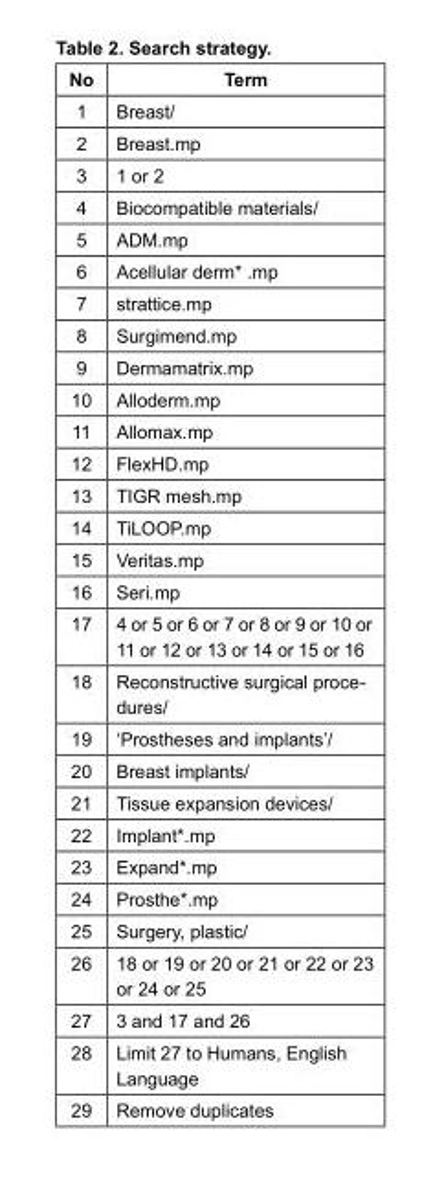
<table><thead><tr><td>No</td><td>Term</td></tr></thead><tbody><tr><td>1</td><td>Breast/</td></tr><tr><td>2</td><td>Breast.mp</td></tr><tr><td>3</td><td>1 or 2</td></tr><tr><td>4</td><td>Biocompatible materials/</td></tr><tr><td>5</td><td>ADM.mp</td></tr><tr><td>6</td><td>Acellular derm* .mp</td></tr><tr><td>7</td><td>strattice.mp</td></tr><tr><td>8</td><td>Surgimend.mp</td></tr><tr><td>9</td><td>Dermamatrix.mp</td></tr><tr><td>10</td><td>Alloderm.mp</td></tr><tr><td>11</td><td>Allomax.mp</td></tr><tr><td>12</td><td>FlexHD.mp</td></tr><tr><td>13</td><td>TIGR mesh.mp</td></tr><tr><td>14</td><td>TiLOOP.mp</td></tr><tr><td>15</td><td>Veritas.mp</td></tr><tr><td>16</td><td>Seri.mp</td></tr><tr><td>17</td><td>4 or 5 or 6 or 7 or 8 or 9 or 10 or 11 or 12 or 13 or 14 or 15 or 16</td></tr><tr><td>18</td><td>Reconstructive surgical proce- dures/</td></tr><tr><td>19</td><td>‘Prostheses and implants’/</td></tr><tr><td>20</td><td>Breast implants/</td></tr><tr><td>21</td><td>Tissue expansion devices/</td></tr><tr><td>22</td><td>Implant*.mp</td></tr><tr><td>23</td><td>Expand*.mp</td></tr><tr><td>24</td><td>Prosthe*.mp</td></tr><tr><td>25</td><td>Surgery, plastic/</td></tr><tr><td>26</td><td>18 or 19 or 20 or 21 or 22 or 23 or 24 or 25</td></tr><tr><td>27</td><td>3 and 17 and 26</td></tr><tr><td>28</td><td>Limit 27 to Humans, English Language</td></tr><tr><td>29</td><td>Remove duplicates</td></tr></tbody></table>